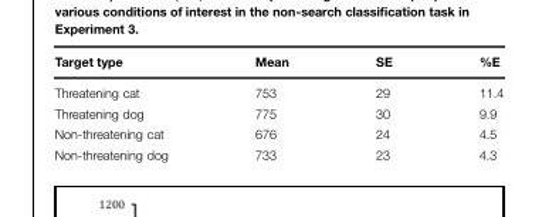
<table><thead><tr><td>Target type</td><td>Mean</td><td>SE</td><td>%E</td></tr></thead><tbody><tr><td>Threatening cat</td><td>753</td><td>29</td><td>11.4</td></tr><tr><td>Threatening dog</td><td>775</td><td>30</td><td>9.9</td></tr><tr><td>Non-threatening cat</td><td>676</td><td>24</td><td>4.5</td></tr><tr><td>Non-threatening dog</td><td>733</td><td>23</td><td>4.3</td></tr></tbody></table>